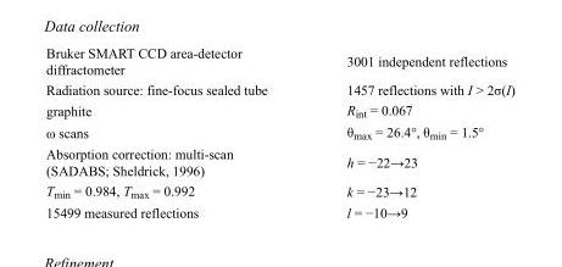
<table><tbody><tr><td>Bruker SMART CCD area-detector diffractometer</td><td>3001 independent reflections</td></tr><tr><td>Radiation source: fine-focus sealed tube</td><td>1457 reflections with I &gt; 2σ(I)</td></tr><tr><td>graphite</td><td>R<sub>int</sub> = 0.067</td></tr><tr><td>ω scans</td><td>θ<sub>max</sub> = 26.4°, θ<sub>min</sub> = 1.5°</td></tr><tr><td>Absorption correction: multi-scan (SADABS; Sheldrick, 1996)</td><td>h = −22→23</td></tr><tr><td>T<sub>min</sub> = 0.984, T<sub>max</sub> = 0.992</td><td>k = −23→12</td></tr><tr><td>15499 measured reflections</td><td>l = −10→9</td></tr></tbody></table>